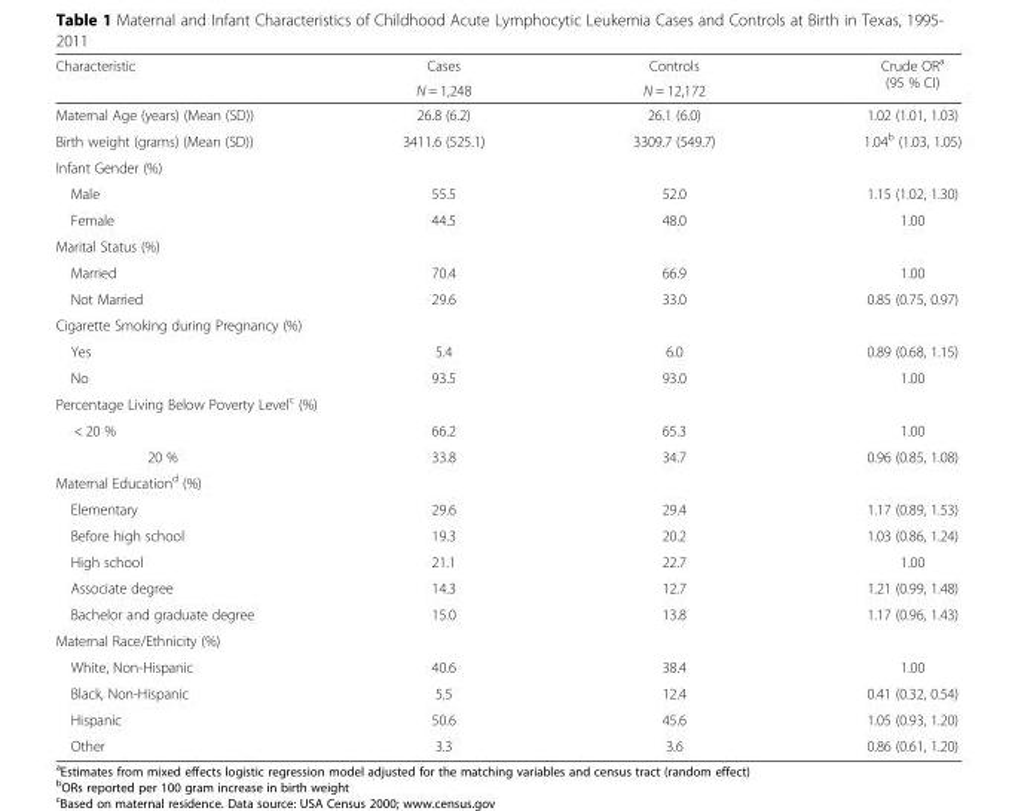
<table><thead><tr><td rowspan="2">Characteristic</td><td rowspan="2">Cases N = 1,248</td><td rowspan="2">Controls N = 12,172</td><td rowspan="2">Crude OR<sup>a</sup> (95 % CI)</td></tr><tr></tr></thead><tbody><tr><td>Maternal Age (years) (Mean (SD))</td><td>26.8 (6.2)</td><td>26.1 (6.0)</td><td>1.02 (1.01, 1.03)</td></tr><tr><td>Birth weight (grams) (Mean (SD))</td><td>3411.6 (525.1)</td><td>3309.7 (549.7)</td><td>1.04<sup>b</sup> (1.03, 1.05)</td></tr><tr><td colspan="4">Infant Gender (%)</td></tr><tr><td>Male</td><td>55.5</td><td>52.0</td><td>1.15 (1.02, 1.30)</td></tr><tr><td>Female</td><td>44.5</td><td>48.0</td><td>1.00</td></tr><tr><td colspan="4">Marital Status (%)</td></tr><tr><td>Married</td><td>70.4</td><td>66.9</td><td>1.00</td></tr><tr><td>Not Married</td><td>29.6</td><td>33.0</td><td>0.85 (0.75, 0.97)</td></tr><tr><td colspan="4">Cigarette Smoking during Pregnancy (%)</td></tr><tr><td>Yes</td><td>5.4</td><td>6.0</td><td>0.89 (0.68, 1.15)</td></tr><tr><td>No</td><td>93.5</td><td>93.0</td><td>1.00</td></tr><tr><td colspan="4">Percentage Living Below Poverty Level<sup>c</sup> (%)</td></tr><tr><td>&lt; 20 %</td><td>66.2</td><td>65.3</td><td>1.00</td></tr><tr><td>20 %</td><td>33.8</td><td>34.7</td><td>0.96 (0.85, 1.08)</td></tr><tr><td colspan="4">Maternal Education<sup>d</sup> (%)</td></tr><tr><td>Elementary</td><td>29.6</td><td>29.4</td><td>1.17 (0.89, 1.53)</td></tr><tr><td>Before high school</td><td>19.3</td><td>20.2</td><td>1.03 (0.86, 1.24)</td></tr><tr><td>High school</td><td>21.1</td><td>22.7</td><td>1.00</td></tr><tr><td>Associate degree</td><td>14.3</td><td>12.7</td><td>1.21 (0.99, 1.48)</td></tr><tr><td>Bachelor and graduate degree</td><td>15.0</td><td>13.8</td><td>1.17 (0.96, 1.43)</td></tr><tr><td colspan="4">Maternal Race/Ethnicity (%)</td></tr><tr><td>White, Non-Hispanic</td><td>40.6</td><td>38.4</td><td>1.00</td></tr><tr><td>Black, Non-Hispanic</td><td>5.5</td><td>12.4</td><td>0.41 (0.32, 0.54)</td></tr><tr><td>Hispanic</td><td>50.6</td><td>45.6</td><td>1.05 (0.93, 1.20)</td></tr><tr><td>Other</td><td>3.3</td><td>3.6</td><td>0.86 (0.61, 1.20)</td></tr></tbody></table>